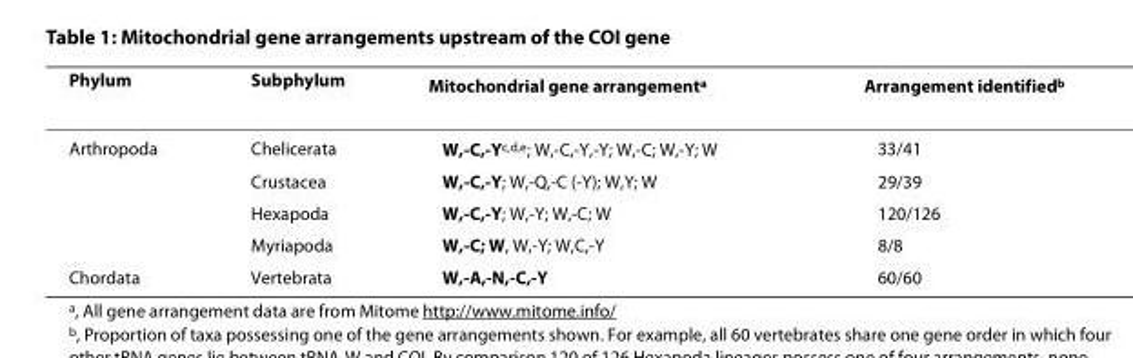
<table><thead><tr><td>Phylum</td><td>Subphylum</td><td>Mitochondrial gene arrangement<sup>a</sup></td><td>Arrangement identified<sup>b</sup></td></tr></thead><tbody><tr><td rowspan="4">Arthropoda</td><td>Chelicerata</td><td>W,-C,-Y<sup>c,d,e</sup>; W,-C,-Y,-Y; W,-C; W,-Y; W</td><td>33/41</td></tr><tr><td>Crustacea</td><td>W,-C,-Y; W,-Q,-C (-Y); W,Y; W</td><td>29/39</td></tr><tr><td>Hexapoda</td><td>W,-C,-Y; W,-Y; W,-C; W</td><td>120/126</td></tr><tr><td>Myriapoda</td><td>W,-C; W, W,-Y; W,C,-Y</td><td>8/8</td></tr><tr><td>Chordata</td><td>Vertebrata</td><td>W,-A,-N,-C,-Y</td><td>60/60</td></tr></tbody></table>